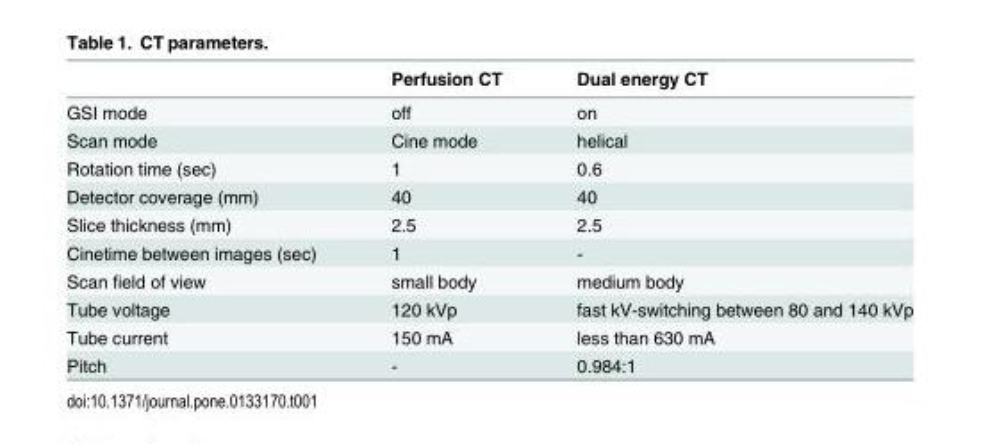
<table><thead><tr><td></td><td>Perfusion CT</td><td>Dual energy CT</td></tr></thead><tbody><tr><td>GSI mode</td><td>off</td><td>on</td></tr><tr><td>Scan mode</td><td>Cine mode</td><td>helical</td></tr><tr><td>Rotation time (sec)</td><td>1</td><td>0.6</td></tr><tr><td>Detector coverage (mm)</td><td>40</td><td>40</td></tr><tr><td>Slice thickness (mm)</td><td>2.5</td><td>2.5</td></tr><tr><td>Cinetime between images (sec)</td><td>1</td><td>-</td></tr><tr><td>Scan field of view</td><td>small body</td><td>medium body</td></tr><tr><td>Tube voltage</td><td>120 kVp</td><td>fast kV-switching between 80 and 140 kVp</td></tr><tr><td>Tube current</td><td>150 mA</td><td>less than 630 mA</td></tr><tr><td>Pitch</td><td>-</td><td>0.984:1</td></tr></tbody></table>